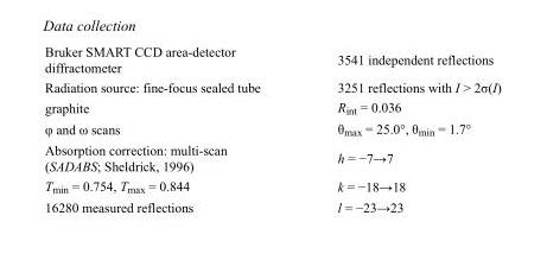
<table><tbody><tr><td>Bruker SMART CCD area-detector diffractometer</td><td>3541 independent reflections</td></tr><tr><td>Radiation source: fine-focus sealed tube</td><td>3251 reflections with I &gt; 2σ(I)</td></tr><tr><td>graphite</td><td>R<sub>int</sub> = 0.036</td></tr><tr><td>φ and ω scans</td><td>θ<sub>max</sub> = 25.0°, θ<sub>min</sub> = 1.7°</td></tr><tr><td>Absorption correction: multi-scan (SADABS; Sheldrick, 1996)</td><td>h = −7→7</td></tr><tr><td>T<sub>min</sub> = 0.754, T<sub>max</sub> = 0.844</td><td>k = −18→18</td></tr><tr><td>16280 measured reflections</td><td>l = −23→23</td></tr></tbody></table>